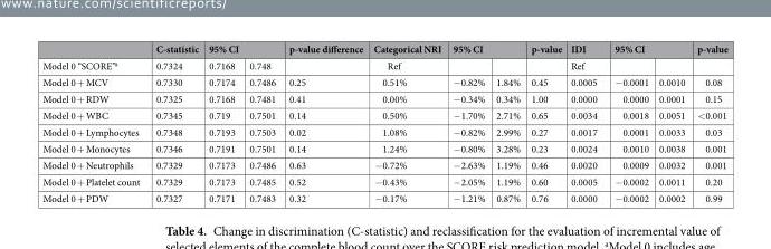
<table><thead><tr><td rowspan="2">Model 0 “SCORE”<sup>a</sup></td><td rowspan="2">C-statistic 0.7324</td><td colspan="2">95% CI</td><td rowspan="2">p-value difference</td><td rowspan="2">Categorical NRI Ref</td><td colspan="2">95% CI</td><td rowspan="2">p-value</td><td rowspan="2">IDI Ref</td><td colspan="2">95% CI</td><td rowspan="2">p-value</td></tr><tr><td>0.7168</td><td>0.748</td><td></td><td></td><td></td><td></td></tr></thead><tbody><tr><td>Model 0 + MCV</td><td>0.7330</td><td>0.7174</td><td>0.7486</td><td>0.25</td><td>0.51%</td><td>−0.82%</td><td>1.84%</td><td>0.45</td><td>0.0005</td><td>−0.0001</td><td>0.0010</td><td>0.08</td></tr><tr><td>Model 0 + RDW</td><td>0.7325</td><td>0.7168</td><td>0.7481</td><td>0.41</td><td>0.00%</td><td>−0.34%</td><td>0.34%</td><td>1.00</td><td>0.0000</td><td>0.0000</td><td>0.0001</td><td>0.15</td></tr><tr><td>Model 0 + WBC</td><td>0.7345</td><td>0.719</td><td>0.7501</td><td>0.14</td><td>0.50%</td><td>−1.70%</td><td>2.71%</td><td>0.65</td><td>0.0034</td><td>0.0018</td><td>0.0051</td><td>&lt;0.001</td></tr><tr><td>Model 0 + Lymphocytes</td><td>0.7348</td><td>0.7193</td><td>0.7503</td><td>0.02</td><td>1.08%</td><td>−0.82%</td><td>2.99%</td><td>0.27</td><td>0.0017</td><td>0.0001</td><td>0.0033</td><td>0.03</td></tr><tr><td>Model 0 + Monocytes</td><td>0.7346</td><td>0.7191</td><td>0.7501</td><td>0.14</td><td>1.24%</td><td>−0.80%</td><td>3.28%</td><td>0.23</td><td>0.0024</td><td>0.0010</td><td>0.0038</td><td>0.001</td></tr><tr><td>Model 0 + Neutrophils</td><td>0.7329</td><td>0.7173</td><td>0.7486</td><td>0.63</td><td>−0.72%</td><td>−2.63%</td><td>1.19%</td><td>0.46</td><td>0.0020</td><td>0.0009</td><td>0.0032</td><td>0.001</td></tr><tr><td>Model 0 + Platelet count</td><td>0.7329</td><td>0.7173</td><td>0.7485</td><td>0.52</td><td>−0.43%</td><td>−2.05%</td><td>1.19%</td><td>0.60</td><td>0.0005</td><td>−0.0002</td><td>0.0011</td><td>0.20</td></tr><tr><td>Model 0 + PDW</td><td>0.7327</td><td>0.7171</td><td>0.7483</td><td>0.32</td><td>−0.17%</td><td>−1.21%</td><td>0.87%</td><td>0.76</td><td>0.0000</td><td>−0.0002</td><td>0.0002</td><td>0.99</td></tr></tbody></table>